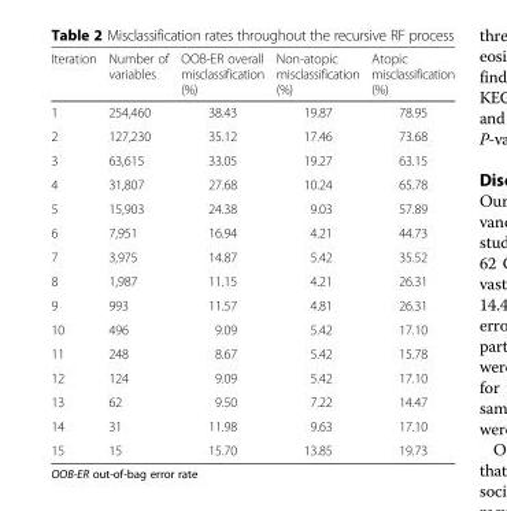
<table><thead><tr><td>Iteration</td><td>Number of variables</td><td>OOB-ER overall misclassification (%)</td><td>Non-atopic misclassification (%)</td><td>Atopic misclassification (%)</td></tr></thead><tbody><tr><td>1</td><td>254,460</td><td>38.43</td><td>19.87</td><td>78.95</td></tr><tr><td>2</td><td>127,230</td><td>35.12</td><td>17.46</td><td>73.68</td></tr><tr><td>3</td><td>63,615</td><td>33.05</td><td>19.27</td><td>63.15</td></tr><tr><td>4</td><td>31,807</td><td>27.68</td><td>10.24</td><td>65.78</td></tr><tr><td>5</td><td>15,903</td><td>24.38</td><td>9.03</td><td>57.89</td></tr><tr><td>6</td><td>7,951</td><td>16.94</td><td>4.21</td><td>44.73</td></tr><tr><td>7</td><td>3,975</td><td>14.87</td><td>5.42</td><td>35.52</td></tr><tr><td>8</td><td>1,987</td><td>11.15</td><td>4.21</td><td>26.31</td></tr><tr><td>9</td><td>993</td><td>11.57</td><td>4.81</td><td>26.31</td></tr><tr><td>10</td><td>496</td><td>9.09</td><td>5.42</td><td>17.10</td></tr><tr><td>11</td><td>248</td><td>8.67</td><td>5.42</td><td>15.78</td></tr><tr><td>12</td><td>124</td><td>9.09</td><td>5.42</td><td>17.10</td></tr><tr><td>13</td><td>62</td><td>9.50</td><td>7.22</td><td>14.47</td></tr><tr><td>14</td><td>31</td><td>11.98</td><td>9.63</td><td>17.10</td></tr><tr><td>15</td><td>15</td><td>15.70</td><td>13.85</td><td>19.73</td></tr></tbody></table>